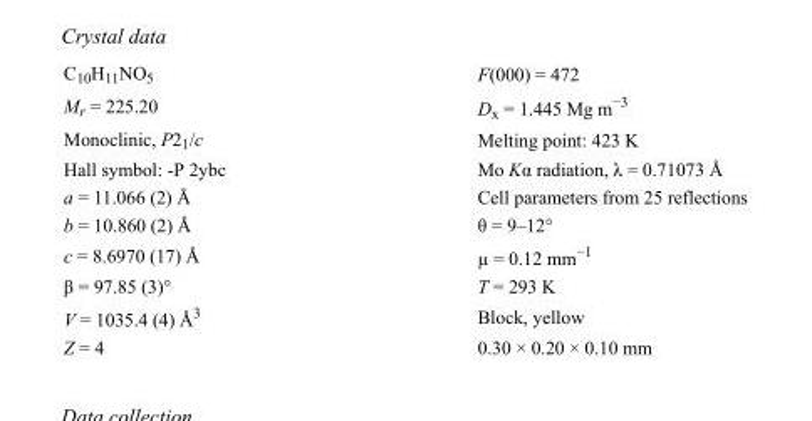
<table><tbody><tr><td>C<sub>10</sub>H<sub>11</sub>NO<sub>5</sub></td><td>F(000) = 472</td></tr><tr><td>M<sub>r</sub> = 225.20</td><td>D<sub>x</sub> = 1.445 Mg m<sup>−3</sup></td></tr><tr><td>Monoclinic, P2<sub>1</sub>/c</td><td>Melting point: 423 K</td></tr><tr><td>Hall symbol: -P 2ybc</td><td>Mo Kα radiation, λ = 0.71073 Å</td></tr><tr><td>a = 11.066 (2) Å</td><td>Cell parameters from 25 reflections</td></tr><tr><td>b = 10.860 (2) Å</td><td>θ = 9–12°</td></tr><tr><td>c = 8.6970 (17) Å</td><td>µ = 0.12 mm<sup>−1</sup></td></tr><tr><td>β = 97.85 (3)°</td><td>T = 293 K</td></tr><tr><td>V = 1035.4 (4) Å<sup>3</sup></td><td>Block, yellow</td></tr><tr><td>Z = 4</td><td>0.30 × 0.20 × 0.10 mm</td></tr></tbody></table>